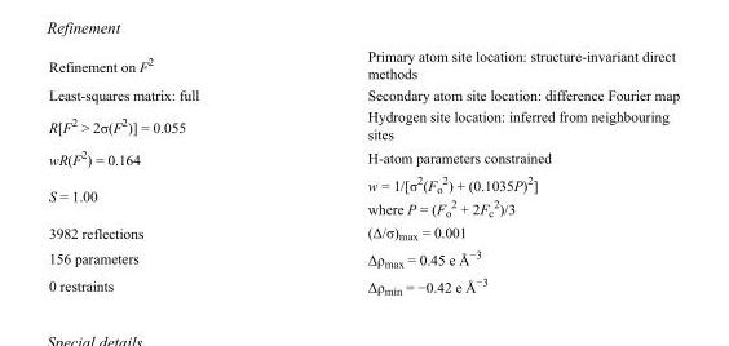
<table><tbody><tr><td>Refinement on F<sup>2</sup></td><td>Primary atom site location: structure-invariant direct methods</td></tr><tr><td>Least-squares matrix: full</td><td>Secondary atom site location: difference Fourier map</td></tr><tr><td>R[F<sup>2</sup> &gt; 2σ(F<sup>2</sup>)] = 0.055</td><td>Hydrogen site location: inferred from neighbouring sites</td></tr><tr><td>wR(F<sup>2</sup>) = 0.164</td><td>H-atom parameters constrained</td></tr><tr><td>S = 1.00</td><td>w = 1/[σ<sup>2</sup>(F<sub>o</sub> <sup>2</sup>) + (0.1035P)<sup>2</sup>] where P = (F<sub>o</sub> <sup>2</sup> + 2F<sub>c</sub> <sup>2</sup>)/3</td></tr><tr><td>3982 reflections</td><td>(Δ/σ)<sub>max</sub> = 0.001</td></tr><tr><td>156 parameters</td><td>Δρ<sub>max</sub> = 0.45 e Å<sup>−3</sup></td></tr><tr><td>0 restraints</td><td>Δρ<sub>min</sub> = −0.42 e Å<sup>−3</sup></td></tr></tbody></table>